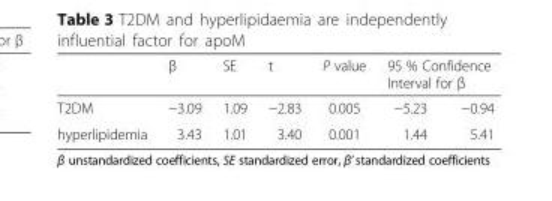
<table><thead><tr><td rowspan="2">T2DM</td><td rowspan="2">β −3.09</td><td rowspan="2">SE 1.09</td><td rowspan="2">t −2.83</td><td rowspan="2">P value 0.005</td><td colspan="2">95 % Confidence Interval for β</td></tr><tr><td>−5.23</td><td>−0.94</td></tr></thead><tbody><tr><td>hyperlipidemia</td><td>3.43</td><td>1.01</td><td>3.40</td><td>0.001</td><td>1.44</td><td>5.41</td></tr></tbody></table>